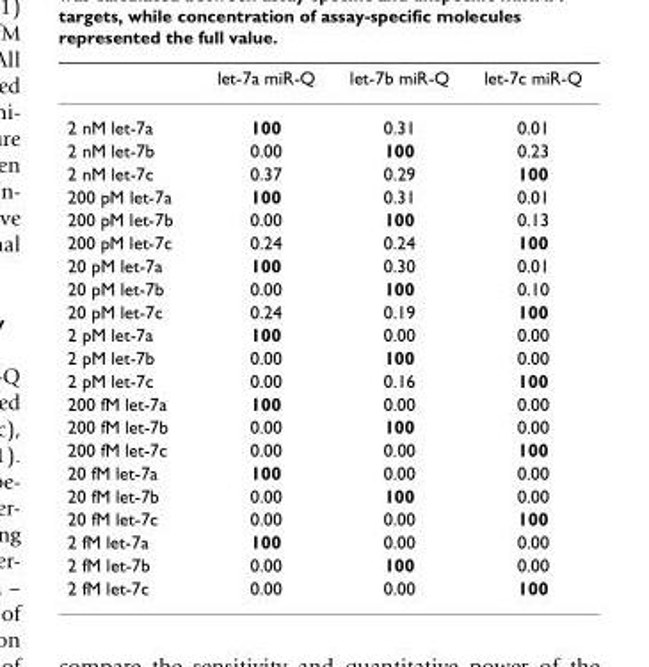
<table><thead><tr><td></td><td>let-7a miR-Q</td><td>let-7b miR-Q</td><td>let-7c miR-Q</td></tr></thead><tbody><tr><td>2 nM let-7a</td><td>100</td><td>0.31</td><td>0.01</td></tr><tr><td>2 nM let-7b</td><td>0.00</td><td>100</td><td>0.23</td></tr><tr><td>2 nM let-7c</td><td>0.37</td><td>0.29</td><td>100</td></tr><tr><td>200 pM let-7a</td><td>100</td><td>0.31</td><td>0.01</td></tr><tr><td>200 pM let-7b</td><td>0.00</td><td>100</td><td>0.13</td></tr><tr><td>200 pM let-7c</td><td>0.24</td><td>0.24</td><td>100</td></tr><tr><td>20 pM let-7a</td><td>100</td><td>0.30</td><td>0.01</td></tr><tr><td>20 pM let-7b</td><td>0.00</td><td>100</td><td>0.10</td></tr><tr><td>20 pM let-7c</td><td>0.24</td><td>0.19</td><td>100</td></tr><tr><td>2 pM let-7a</td><td>100</td><td>0.00</td><td>0.00</td></tr><tr><td>2 pM let-7b</td><td>0.00</td><td>100</td><td>0.00</td></tr><tr><td>2 pM let-7c</td><td>0.00</td><td>0.16</td><td>100</td></tr><tr><td>200 fM let-7a</td><td>100</td><td>0.00</td><td>0.00</td></tr><tr><td>200 fM let-7b</td><td>0.00</td><td>100</td><td>0.00</td></tr><tr><td>200 fM let-7c</td><td>0.00</td><td>0.00</td><td>100</td></tr><tr><td>20 fM let-7a</td><td>100</td><td>0.00</td><td>0.00</td></tr><tr><td>20 fM let-7b</td><td>0.00</td><td>100</td><td>0.00</td></tr><tr><td>20 fM let-7c</td><td>0.00</td><td>0.00</td><td>100</td></tr><tr><td>2 fM let-7a</td><td>100</td><td>0.00</td><td>0.00</td></tr><tr><td>2 fM let-7b</td><td>0.00</td><td>100</td><td>0.00</td></tr><tr><td>2 fM let-7c</td><td>0.00</td><td>0.00</td><td>100</td></tr></tbody></table>